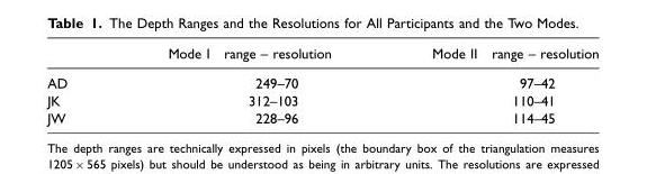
<table><thead><tr><td></td><td>Mode I range – resolution</td><td>Mode II range – resolution</td></tr></thead><tbody><tr><td>AD</td><td>249–70</td><td>97–42</td></tr><tr><td>JK</td><td>312–103</td><td>110–41</td></tr><tr><td>JW</td><td>228–96</td><td>114–45</td></tr></tbody></table>